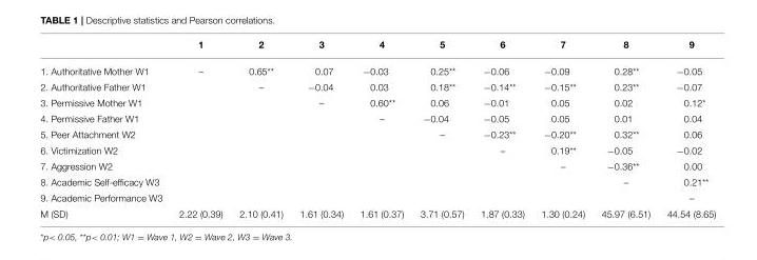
<table><thead><tr><td></td><td>1</td><td>2</td><td>3</td><td>4</td><td>5</td><td>6</td><td>7</td><td>8</td><td>9</td></tr></thead><tbody><tr><td>1. Authoritative Mother W1</td><td>–</td><td>0.65**</td><td>0.07</td><td>−0.03</td><td>0.25**</td><td>−0.06</td><td>−0.09</td><td>0.28**</td><td>−0.05</td></tr><tr><td>2. Authoritative Father W1</td><td></td><td>–</td><td>−0.04</td><td>0.03</td><td>0.18**</td><td>−0.14**</td><td>−0.15**</td><td>0.23**</td><td>−0.07</td></tr><tr><td>3. Permissive Mother W1</td><td></td><td></td><td>–</td><td>0.60**</td><td>0.06</td><td>−0.01</td><td>0.05</td><td>0.02</td><td>0.12*</td></tr><tr><td>4. Permissive Father W1</td><td></td><td></td><td></td><td>–</td><td>−0.04</td><td>−0.05</td><td>0.05</td><td>0.01</td><td>0.04</td></tr><tr><td>5. Peer Attachment W2</td><td></td><td></td><td></td><td></td><td>–</td><td>−0.23**</td><td>−0.20**</td><td>0.32**</td><td>0.06</td></tr><tr><td>6. Victimization W2</td><td></td><td></td><td></td><td></td><td></td><td>–</td><td>0.19**</td><td>−0.05</td><td>−0.02</td></tr><tr><td>7. Aggression W2</td><td></td><td></td><td></td><td></td><td></td><td></td><td>–</td><td>−0.36**</td><td>0.00</td></tr><tr><td>8. Academic Self-efficacy W3</td><td></td><td></td><td></td><td></td><td></td><td></td><td></td><td>–</td><td>0.21**</td></tr><tr><td>9. Academic Performance W3</td><td></td><td></td><td></td><td></td><td></td><td></td><td></td><td></td><td>–</td></tr><tr><td>M (SD)</td><td>2.22 (0.39)</td><td>2.10 (0.41)</td><td>1.61 (0.34)</td><td>1.61 (0.37)</td><td>3.71 (0.57)</td><td>1.87 (0.33)</td><td>1.30 (0.24)</td><td>45.97 (6.51)</td><td>44.54 (8.65)</td></tr></tbody></table>